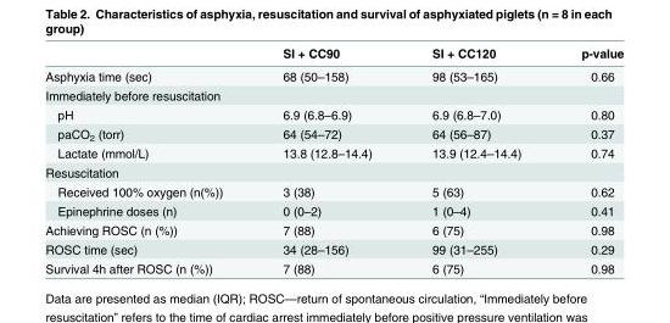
<table><thead><tr><td></td><td>SI + CC90</td><td>SI + CC120</td><td>p-value</td></tr></thead><tbody><tr><td>Asphyxia time (sec)</td><td>68 (50–158)</td><td>98 (53–165)</td><td>0.66</td></tr><tr><td colspan="4">Immediately before resuscitation</td></tr><tr><td>pH</td><td>6.9 (6.8–6.9)</td><td>6.9 (6.8–7.0)</td><td>0.80</td></tr><tr><td>paCO<sub>2</sub> (torr)</td><td>64 (54–72)</td><td>64 (56–87)</td><td>0.37</td></tr><tr><td>Lactate (mmol/L)</td><td>13.8 (12.8–14.4)</td><td>13.9 (12.4–14.4)</td><td>0.74</td></tr><tr><td colspan="4">Resuscitation</td></tr><tr><td>Received 100% oxygen (n(%))</td><td>3 (38)</td><td>5 (63)</td><td>0.62</td></tr><tr><td>Epinephrine doses (n)</td><td>0 (0–2)</td><td>1 (0–4)</td><td>0.41</td></tr><tr><td>Achieving ROSC (n (%))</td><td>7 (88)</td><td>6 (75)</td><td>0.98</td></tr><tr><td>ROSC time (sec)</td><td>34 (28–156)</td><td>99 (31–255)</td><td>0.29</td></tr><tr><td>Survival 4h after ROSC (n (%))</td><td>7 (88)</td><td>6 (75)</td><td>0.98</td></tr></tbody></table>